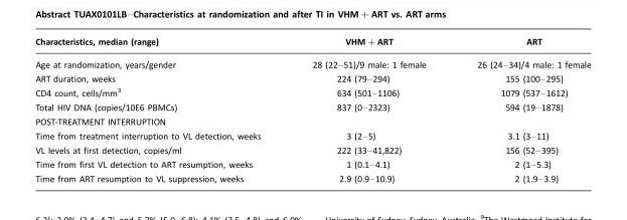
<table><thead><tr><td>Characteristics, median (range)</td><td>VHM+ART</td><td>ART</td></tr></thead><tbody><tr><td>Age at randomization, years/gender</td><td>28 (22–51)/9 male: 1 female</td><td>26 (24–34)/4 male: 1 female</td></tr><tr><td>ART duration, weeks</td><td>224 (79–294)</td><td>155 (100–295)</td></tr><tr><td>CD4 count, cells/mm3</td><td>634 (501–1106)</td><td>1079 (537–1612)</td></tr><tr><td>Total HIV DNA (copies/10E6 PBMCs)</td><td>837 (0–2323)</td><td>594 (19–1878)</td></tr><tr><td colspan="3">POST-TREATMENT INTERRUPTION</td></tr><tr><td>Time from treatment interruption to VL detection, weeks</td><td>3 (2–5)</td><td>3.1 (3–11)</td></tr><tr><td>VL levels at first detection, copies/ml</td><td>222 (33–41,822)</td><td>156 (52–395)</td></tr><tr><td>Time from first VL detection to ART resumption, weeks</td><td>1 (0.1–4.1)</td><td>2 (1–5.3)</td></tr><tr><td>Time from ART resumption to VL suppression, weeks</td><td>2.9 (0.9–10.9)</td><td>2 (1.9–3.9)</td></tr></tbody></table>